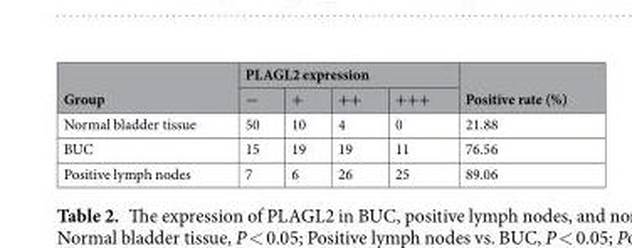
<table><thead><tr><td rowspan="2">Group</td><td colspan="4">PLAGL2 expression</td><td rowspan="2">Positive rate (%)</td></tr><tr><td>−</td><td>+</td><td>++</td><td>+++</td></tr></thead><tbody><tr><td>Normal bladder tissue</td><td>50</td><td>10</td><td>4</td><td>0</td><td>21.88</td></tr><tr><td>BUC</td><td>15</td><td>19</td><td>19</td><td>11</td><td>76.56</td></tr><tr><td>Positive lymph nodes</td><td>7</td><td>6</td><td>26</td><td>25</td><td>89.06</td></tr></tbody></table>